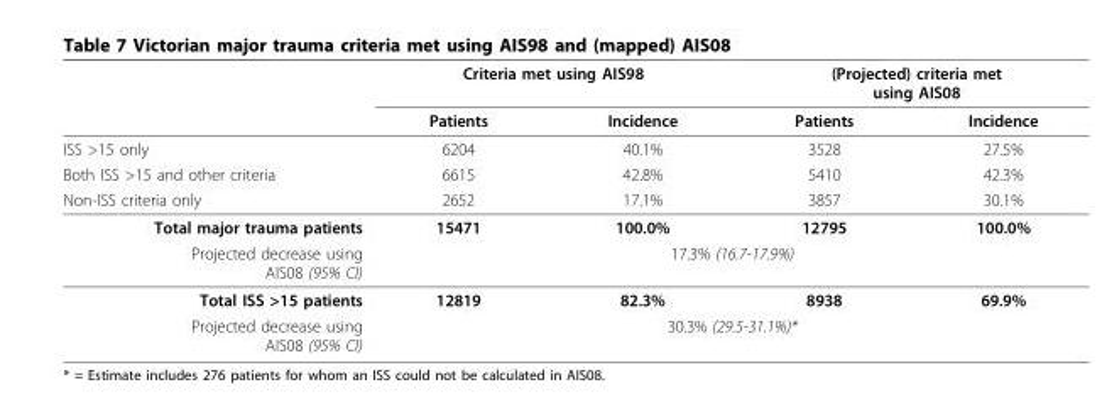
<table><thead><tr><td rowspan="2"></td><td colspan="2">Criteria met using AIS98</td><td colspan="2">(Projected) criteria met using AIS08</td></tr><tr><td>Patients</td><td>Incidence</td><td>Patients</td><td>Incidence</td></tr></thead><tbody><tr><td>ISS &gt;15 only</td><td>6204</td><td>40.1%</td><td>3528</td><td>27.5%</td></tr><tr><td>Both ISS &gt;15 and other criteria</td><td>6615</td><td>42.8%</td><td>5410</td><td>42.3%</td></tr><tr><td>Non-ISS criteria only</td><td>2652</td><td>17.1%</td><td>3857</td><td>30.1%</td></tr><tr><td>Total major trauma patients</td><td>15471</td><td>100.0%</td><td>12795</td><td>100.0%</td></tr><tr><td>Projected decrease using AIS08 (95% CI)</td><td colspan="4">17.3% (16.7-17.9%)</td></tr><tr><td>Total ISS &gt;15 patients</td><td>12819</td><td>82.3%</td><td>8938</td><td>69.9%</td></tr><tr><td>Projected decrease using AIS08 (95% CI)</td><td colspan="4">30.3% (29.5-31.1%)*</td></tr></tbody></table>